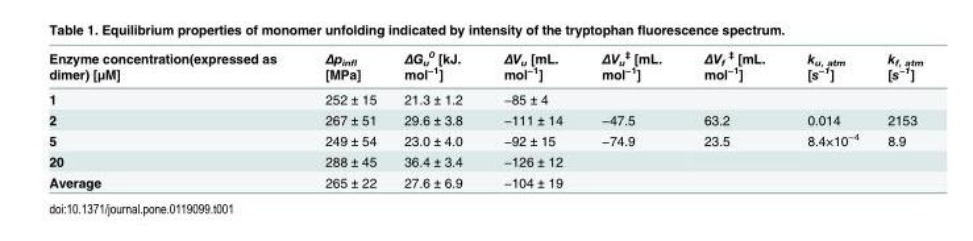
<table><thead><tr><td>Enzyme concentration(expressed as dimer) [μM]</td><td>Δp<sub>infl</sub> [MPa]</td><td>ΔG<sub>u</sub> <sup>0</sup> [kJ. mol<sup>−1</sup>]</td><td>ΔV<sub>u</sub> [mL. mol<sup>−1</sup>]</td><td>ΔV<sub>u</sub> <sup>‡</sup> [mL. mol<sup>−1</sup>]</td><td>ΔV<sub>f</sub> <sup>‡</sup> [mL. mol<sup>−1</sup>]</td><td>k<sub>u, atm</sub> [s<sup>−1</sup>]</td><td>k<sub>f, atm</sub> [s<sup>−1</sup>]</td></tr></thead><tbody><tr><td>1</td><td>252 ± 15</td><td>21.3 ± 1.2</td><td>−85 ± 4</td><td></td><td></td><td></td><td></td></tr><tr><td>2</td><td>267 ± 51</td><td>29.6 ± 3.8</td><td>−111 ± 14</td><td>−47.5</td><td>63.2</td><td>0.014</td><td>2153</td></tr><tr><td>5</td><td>249 ± 54</td><td>23.0 ± 4.0</td><td>−92 ± 15</td><td>−74.9</td><td>23.5</td><td>8.4×10<sup>−4</sup></td><td>8.9</td></tr><tr><td>20</td><td>288 ± 45</td><td>36.4 ± 3.4</td><td>−126 ± 12</td><td></td><td></td><td></td><td></td></tr><tr><td>Average</td><td>265 ± 22</td><td>27.6 ± 6.9</td><td>−104 ± 19</td><td></td><td></td><td></td><td></td></tr></tbody></table>